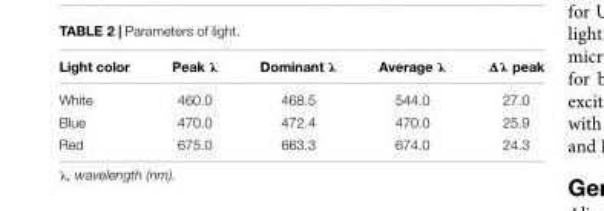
<table><thead><tr><td>Light color</td><td>Peak λ</td><td>Dominant λ</td><td>Average λ</td><td>Δλ peak</td></tr></thead><tbody><tr><td>White</td><td>460.0</td><td>468.5</td><td>544.0</td><td>27.0</td></tr><tr><td>Blue</td><td>470.0</td><td>472.4</td><td>470.0</td><td>25.9</td></tr><tr><td>Red</td><td>675.0</td><td>663.3</td><td>674.0</td><td>24.3</td></tr></tbody></table>